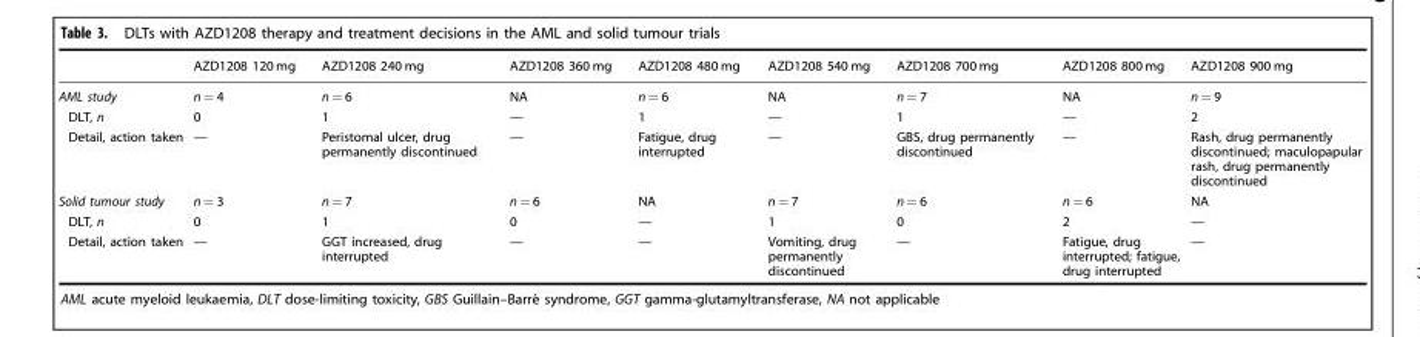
<table><thead><tr><td></td><td>AZD1208 120 mg</td><td>AZD1208 240 mg</td><td>AZD1208 360 mg</td><td>AZD1208 480 mg</td><td>AZD1208 540 mg</td><td>AZD1208 700 mg</td><td>AZD1208 800 mg</td><td>AZD1208 900 mg</td></tr></thead><tbody><tr><td>AML study</td><td>n = 4</td><td>n = 6</td><td>NA</td><td>n = 6</td><td>NA</td><td>n = 7</td><td>NA</td><td>n = 9</td></tr><tr><td>DLT, n</td><td>0</td><td>1</td><td>—</td><td>1</td><td>—</td><td>1</td><td>—</td><td>2</td></tr><tr><td>Detail, action taken</td><td>—</td><td>Peristomal ulcer, drug permanently discontinued</td><td>—</td><td>Fatigue, drug interrupted</td><td>—</td><td>GBS, drug permanently discontinued</td><td>—</td><td>Rash, drug permanently discontinued; maculopapular rash, drug permanently discontinued</td></tr><tr><td>Solid tumour study</td><td>n = 3</td><td>n = 7</td><td>n = 6</td><td>NA</td><td>n = 7</td><td>n = 6</td><td>n = 6</td><td>NA</td></tr><tr><td>DLT, n</td><td>0</td><td>1</td><td>0</td><td>—</td><td>1</td><td>0</td><td>2</td><td>—</td></tr><tr><td>Detail, action taken</td><td>—</td><td>GGT increased, drug interrupted</td><td>—</td><td>—</td><td>Vomiting, drug permanently discontinued</td><td>—</td><td>Fatigue, drug interrupted; fatigue, drug interrupted</td><td>—</td></tr></tbody></table>